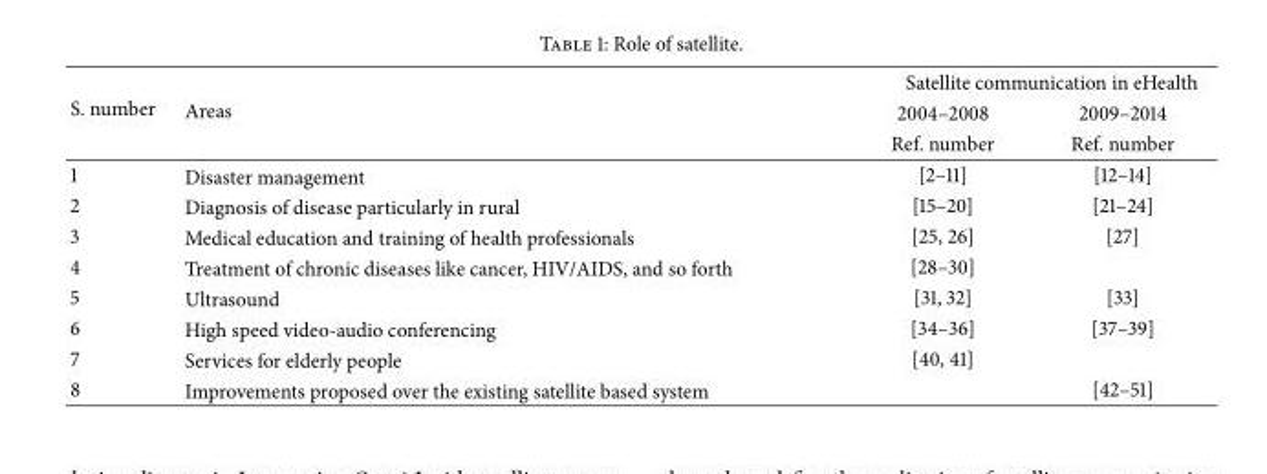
<table><thead><tr><td rowspan="3">S. number</td><td rowspan="3">Areas</td><td colspan="2">Satellite communication in eHealth</td></tr><tr><td rowspan="2">2004–2008 Ref. number</td><td rowspan="2">2009–2014 Ref. number</td></tr><tr></tr></thead><tbody><tr><td>1</td><td>Disaster management</td><td>[2–11]</td><td>[12–14]</td></tr><tr><td>2</td><td>Diagnosis of disease particularly in rural</td><td>[15–20]</td><td>[21–24]</td></tr><tr><td>3</td><td>Medical education and training of health professionals</td><td>[25, 26]</td><td>[27]</td></tr><tr><td>4</td><td>Treatment of chronic diseases like cancer, HIV/AIDS, and so forth</td><td>[28–30]</td><td></td></tr><tr><td>5</td><td>Ultrasound</td><td>[31, 32]</td><td>[33]</td></tr><tr><td>6</td><td>High speed video-audio conferencing</td><td>[34–36]</td><td>[37–39]</td></tr><tr><td>7</td><td>Services for elderly people</td><td>[40, 41]</td><td></td></tr><tr><td>8</td><td>Improvements proposed over the existing satellite based system</td><td></td><td>[42–51]</td></tr></tbody></table>